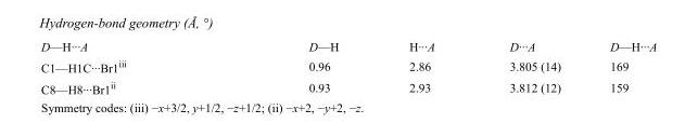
<table><tbody><tr><td>D—H···A</td><td>D—H</td><td>H···A</td><td>D···A</td><td>D—H···A</td></tr><tr><td>C1—H1C···Br1<sup>iii</sup></td><td>0.96</td><td>2.86</td><td>3.805 (14)</td><td>169</td></tr><tr><td>C8—H8···Br1<sup>ii</sup></td><td>0.93</td><td>2.93</td><td>3.812 (12)</td><td>159</td></tr></tbody></table>